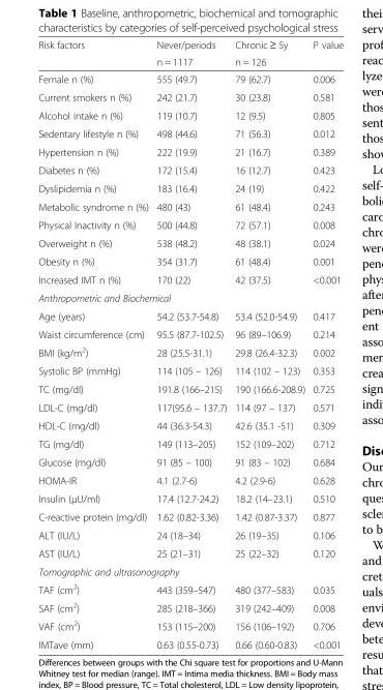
<table><thead><tr><td rowspan="2">Risk factors</td><td rowspan="2">Never/periods n = 1117</td><td rowspan="2">Chronic ≥ 5y n = 126</td><td rowspan="2">P value</td></tr><tr></tr></thead><tbody><tr><td>Female n (%)</td><td>555 (49.7)</td><td>79 (62.7)</td><td>0.006</td></tr><tr><td>Current smokers n (%)</td><td>242 (21.7)</td><td>30 (23.8)</td><td>0.581</td></tr><tr><td>Alcohol intake n (%)</td><td>119 (10.7)</td><td>12 (9.5)</td><td>0.805</td></tr><tr><td>Sedentary lifestyle n (%)</td><td>498 (44.6)</td><td>71 (56.3)</td><td>0.012</td></tr><tr><td>Hypertension n (%)</td><td>222 (19.9)</td><td>21 (16.7)</td><td>0.389</td></tr><tr><td>Diabetes n (%)</td><td>172 (15.4)</td><td>16 (12.7)</td><td>0.423</td></tr><tr><td>Dyslipidemia n (%)</td><td>183 (16.4)</td><td>24 (19)</td><td>0.422</td></tr><tr><td>Metabolic syndrome n (%)</td><td>480 (43)</td><td>61 (48.4)</td><td>0.243</td></tr><tr><td>Physical Inactivity n (%)</td><td>500 (44.8)</td><td>72 (57.1)</td><td>0.008</td></tr><tr><td>Overweight n (%)</td><td>538 (48.2)</td><td>48 (38.1)</td><td>0.024</td></tr><tr><td>Obesity n (%)</td><td>354 (31.7)</td><td>61 (48.4)</td><td>0.001</td></tr><tr><td>Increased IMT n (%)</td><td>170 (22)</td><td>42 (37.5)</td><td>&lt;0.001</td></tr><tr><td colspan="4">Anthropometric and Biochemical</td></tr><tr><td>Age (years)</td><td>54.2 (53.7-54.8)</td><td>53.4 (52.0-54.9)</td><td>0.417</td></tr><tr><td>Waist circumference (cm)</td><td>95.5 (87.7-102.5)</td><td>96 (89–106.9)</td><td>0.214</td></tr><tr><td>BMI (kg/m<sup>2</sup>)</td><td>28 (25.5-31.1)</td><td>29.8 (26.4-32.3)</td><td>0.002</td></tr><tr><td>Systolic BP (mmHg)</td><td>114 (105 – 126)</td><td>114 (102 – 123)</td><td>0.353</td></tr><tr><td>TC (mg/dl)</td><td>191.8 (166–215)</td><td>190 (166.6-208.9)</td><td>0.725</td></tr><tr><td>LDL-C (mg/dl)</td><td>117(95.6 – 137.7)</td><td>114 (97 – 137)</td><td>0.571</td></tr><tr><td>HDL-C (mg/dl)</td><td>44 (36.3-54.3)</td><td>42.6 (35.1 -51)</td><td>0.309</td></tr><tr><td>TG (mg/dl)</td><td>149 (113–205)</td><td>152 (109–202)</td><td>0.712</td></tr><tr><td>Glucose (mg/dl)</td><td>91 (85 – 100)</td><td>91 (83 – 102)</td><td>0.684</td></tr><tr><td>HOMA-IR</td><td>4.1 (2.7-6)</td><td>4.2 (2.9-6)</td><td>0.628</td></tr><tr><td>Insulin (μU/ml)</td><td>17.4 (12.7-24.2)</td><td>18.2 (14–23.1)</td><td>0.510</td></tr><tr><td>C-reactive protein (mg/dl)</td><td>1.62 (0.82-3.36)</td><td>1.42 (0.87-3.37)</td><td>0.877</td></tr><tr><td>ALT (IU/L)</td><td>24 (18–34)</td><td>26 (19–35)</td><td>0.106</td></tr><tr><td>AST (IU/L)</td><td>25 (21–31)</td><td>25 (22–32)</td><td>0.120</td></tr><tr><td colspan="4">Tomographic and ultrasonography</td></tr><tr><td>TAF (cm<sup>2</sup>)</td><td>443 (359–547)</td><td>480 (377–583)</td><td>0.035</td></tr><tr><td>SAF (cm<sup>2</sup>)</td><td>285 (218–366)</td><td>319 (242–409)</td><td>0.008</td></tr><tr><td>VAF (cm<sup>2</sup>)</td><td>153 (115–200)</td><td>156 (106–192)</td><td>0.706</td></tr><tr><td>IMTave (mm)</td><td>0.63 (0.55-0.73)</td><td>0.66 (0.60-0.83)</td><td>&lt;0.001</td></tr></tbody></table>